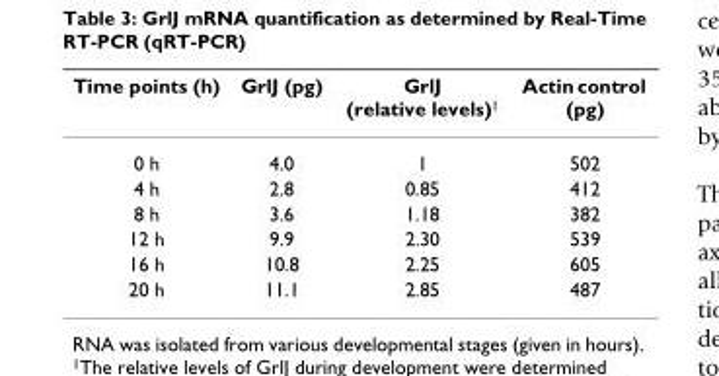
<table><thead><tr><td>Time points (h)</td><td>GrlJ (pg)</td><td>GrlJ (relative levels)<sup>1</sup></td><td>Actin control (pg)</td></tr></thead><tbody><tr><td>0 h</td><td>4.0</td><td>1</td><td>502</td></tr><tr><td>4 h</td><td>2.8</td><td>0.85</td><td>412</td></tr><tr><td>8 h</td><td>3.6</td><td>1.18</td><td>382</td></tr><tr><td>12 h</td><td>9.9</td><td>2.30</td><td>539</td></tr><tr><td>16 h</td><td>10.8</td><td>2.25</td><td>605</td></tr><tr><td>20 h</td><td>11.1</td><td>2.85</td><td>487</td></tr></tbody></table>